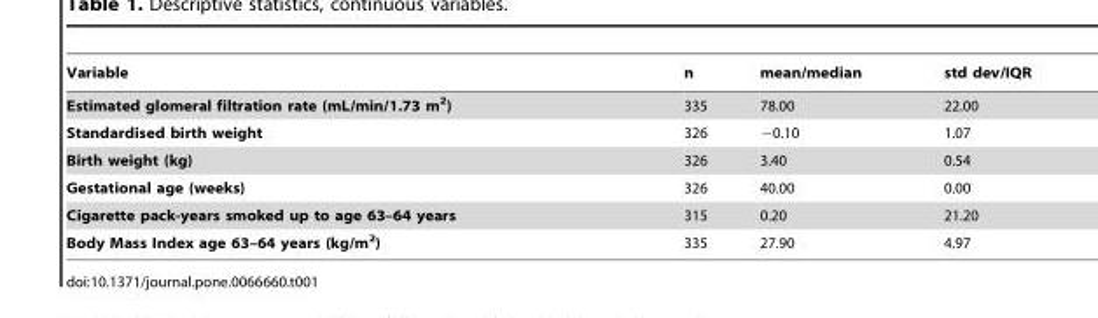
<table><thead><tr><td>Variable</td><td>n</td><td>mean/median</td><td>std dev/IQR</td></tr></thead><tbody><tr><td>Estimated glomeral filtration rate (mL/min/1.73 m<sup>2</sup>)</td><td>335</td><td>78.00</td><td>22.00</td></tr><tr><td>Standardised birth weight</td><td>326</td><td>−0.10</td><td>1.07</td></tr><tr><td>Birth weight (kg)</td><td>326</td><td>3.40</td><td>0.54</td></tr><tr><td>Gestational age (weeks)</td><td>326</td><td>40.00</td><td>0.00</td></tr><tr><td>Cigarette pack-years smoked up to age 63–64 years</td><td>315</td><td>0.20</td><td>21.20</td></tr><tr><td>Body Mass Index age 63–64 years (kg/m<sup>2</sup>)</td><td>335</td><td>27.90</td><td>4.97</td></tr></tbody></table>